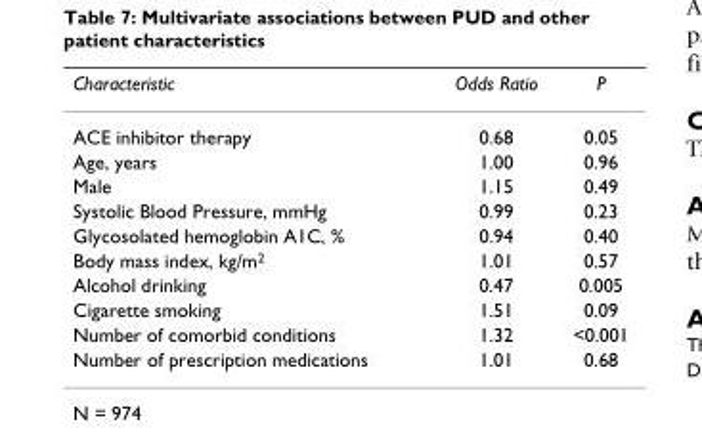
<table><thead><tr><td>Characteristic</td><td>Odds Ratio</td><td>P</td></tr></thead><tbody><tr><td>ACE inhibitor therapy</td><td>0.68</td><td>0.05</td></tr><tr><td>Age, years</td><td>1.00</td><td>0.96</td></tr><tr><td>Male</td><td>1.15</td><td>0.49</td></tr><tr><td>Systolic Blood Pressure, mmHg</td><td>0.99</td><td>0.23</td></tr><tr><td>Glycosolated hemoglobin A1C, %</td><td>0.94</td><td>0.40</td></tr><tr><td>Body mass index, kg/m<sup>2</sup></td><td>1.01</td><td>0.57</td></tr><tr><td>Alcohol drinking</td><td>0.47</td><td>0.005</td></tr><tr><td>Cigarette smoking</td><td>1.51</td><td>0.09</td></tr><tr><td>Number of comorbid conditions</td><td>1.32</td><td>&lt;0.001</td></tr><tr><td>Number of prescription medications</td><td>1.01</td><td>0.68</td></tr></tbody></table>